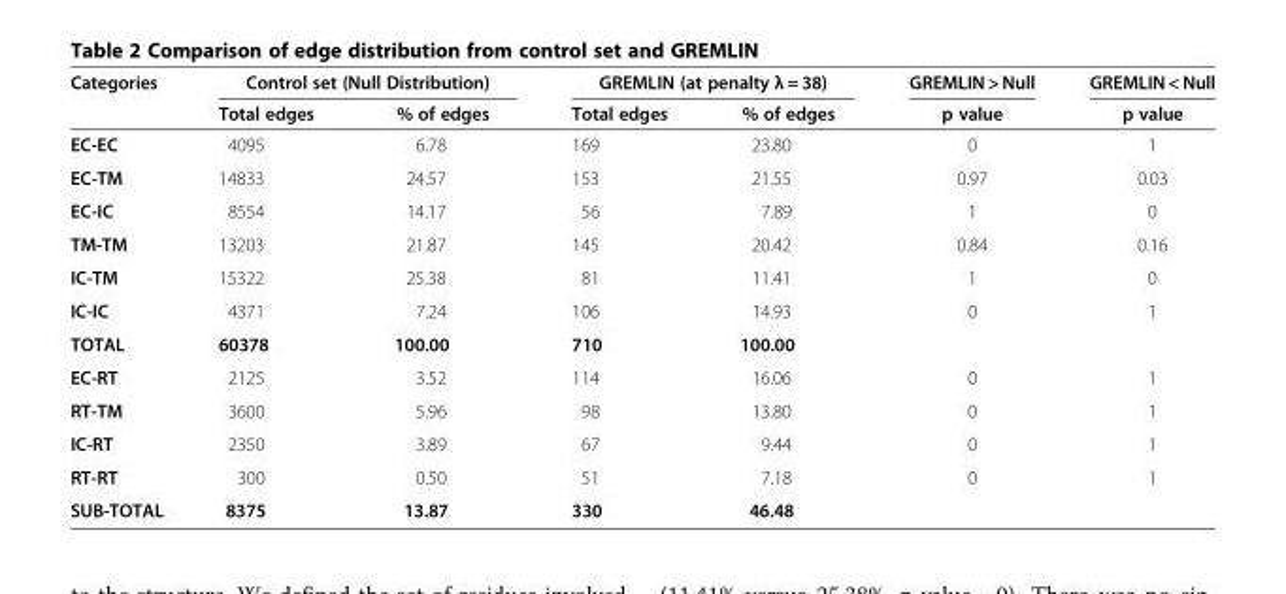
<table><thead><tr><td rowspan="2">Categories</td><td colspan="2">Control set (Null Distribution)</td><td colspan="2">GREMLIN (at penalty λ = 38)</td><td rowspan="2">GREMLIN &gt; Null p value</td><td rowspan="2">GREMLIN &lt; Null p value</td></tr><tr><td>Total edges</td><td>% of edges</td><td>Total edges</td><td>% of edges</td></tr></thead><tbody><tr><td>EC-EC</td><td>4095</td><td>6.78</td><td>169</td><td>23.80</td><td>0</td><td>1</td></tr><tr><td>EC-TM</td><td>14833</td><td>24.57</td><td>153</td><td>21.55</td><td>0.97</td><td>0.03</td></tr><tr><td>EC-IC</td><td>8554</td><td>14.17</td><td>56</td><td>7.89</td><td>1</td><td>0</td></tr><tr><td>TM-TM</td><td>13203</td><td>21.87</td><td>145</td><td>20.42</td><td>0.84</td><td>0.16</td></tr><tr><td>IC-TM</td><td>15322</td><td>25.38</td><td>81</td><td>11.41</td><td>1</td><td>0</td></tr><tr><td>IC-IC</td><td>4371</td><td>7.24</td><td>106</td><td>14.93</td><td>0</td><td>1</td></tr><tr><td>TOTAL</td><td>60378</td><td>100.00</td><td>710</td><td>100.00</td><td></td><td></td></tr><tr><td>EC-RT</td><td>2125</td><td>3.52</td><td>114</td><td>16.06</td><td>0</td><td>1</td></tr><tr><td>RT-TM</td><td>3600</td><td>5.96</td><td>98</td><td>13.80</td><td>0</td><td>1</td></tr><tr><td>IC-RT</td><td>2350</td><td>3.89</td><td>67</td><td>9.44</td><td>0</td><td>1</td></tr><tr><td>RT-RT</td><td>300</td><td>0.50</td><td>51</td><td>7.18</td><td>0</td><td>1</td></tr><tr><td>SUB-TOTAL</td><td>8375</td><td>13.87</td><td>330</td><td>46.48</td><td></td><td></td></tr></tbody></table>